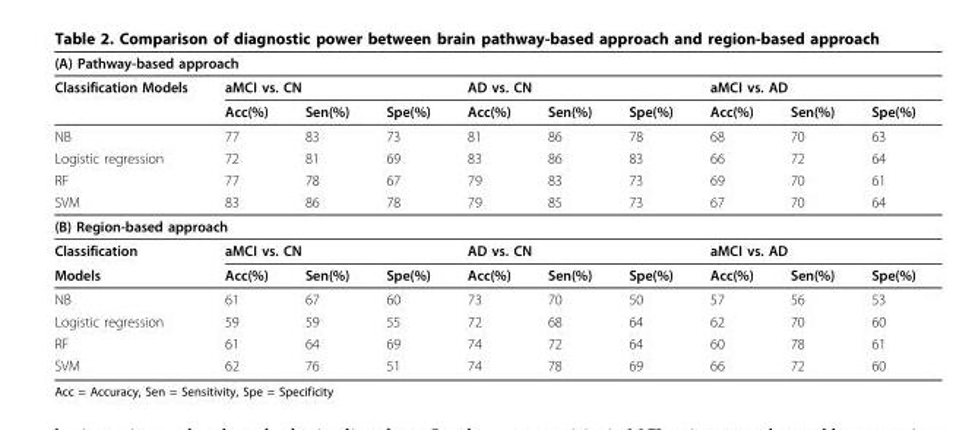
<table><thead><tr><td colspan="10">(A) Pathway-based approach</td></tr><tr><td rowspan="2">Classification Models</td><td colspan="3">aMCI vs. CN</td><td colspan="3">AD vs. CN</td><td colspan="3">aMCI vs. AD</td></tr><tr><td>Acc(%)</td><td>Sen(%)</td><td>Spe(%)</td><td>Acc(%)</td><td>Sen(%)</td><td>Spe(%)</td><td>Acc(%)</td><td>Sen(%)</td><td>Spe(%)</td></tr></thead><tbody><tr><td>NB</td><td>77</td><td>83</td><td>73</td><td>81</td><td>86</td><td>78</td><td>68</td><td>70</td><td>63</td></tr><tr><td>Logistic regression</td><td>72</td><td>81</td><td>69</td><td>83</td><td>86</td><td>83</td><td>66</td><td>72</td><td>64</td></tr><tr><td>RF</td><td>77</td><td>78</td><td>67</td><td>79</td><td>83</td><td>73</td><td>69</td><td>70</td><td>61</td></tr><tr><td>SVM</td><td>83</td><td>86</td><td>78</td><td>79</td><td>85</td><td>73</td><td>67</td><td>70</td><td>64</td></tr><tr><td colspan="10">(B) Region-based approach</td></tr><tr><td>Classification</td><td colspan="3">aMCI vs. CN</td><td colspan="3">AD vs. CN</td><td colspan="3">aMCI vs. AD</td></tr><tr><td>Models</td><td>Acc(%)</td><td>Sen(%)</td><td>Spe(%)</td><td>Acc(%)</td><td>Sen(%)</td><td>Spe(%)</td><td>Acc(%)</td><td>Sen(%)</td><td>Spe(%)</td></tr><tr><td>NB</td><td>61</td><td>67</td><td>60</td><td>73</td><td>70</td><td>50</td><td>57</td><td>56</td><td>53</td></tr><tr><td>Logistic regression</td><td>59</td><td>59</td><td>55</td><td>72</td><td>68</td><td>64</td><td>62</td><td>70</td><td>60</td></tr><tr><td>RF</td><td>61</td><td>64</td><td>69</td><td>74</td><td>72</td><td>64</td><td>60</td><td>78</td><td>61</td></tr><tr><td>SVM</td><td>62</td><td>76</td><td>51</td><td>74</td><td>78</td><td>69</td><td>66</td><td>72</td><td>60</td></tr></tbody></table>